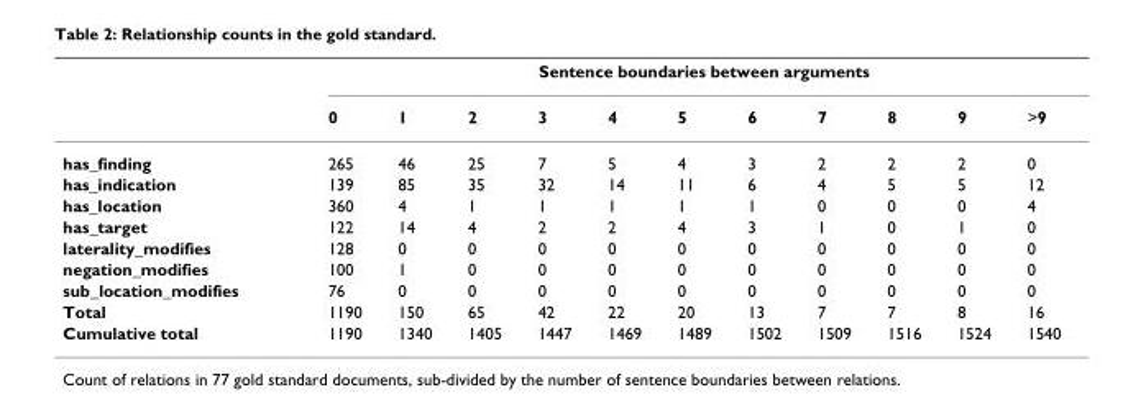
<table><thead><tr><td rowspan="2"></td><td colspan="11">Sentence boundaries between arguments</td></tr><tr><td>0</td><td>1</td><td>2</td><td>3</td><td>4</td><td>5</td><td>6</td><td>7</td><td>8</td><td>9</td><td>&gt;9</td></tr></thead><tbody><tr><td>has_finding</td><td>265</td><td>46</td><td>25</td><td>7</td><td>5</td><td>4</td><td>3</td><td>2</td><td>2</td><td>2</td><td>0</td></tr><tr><td>has_indication</td><td>139</td><td>85</td><td>35</td><td>32</td><td>14</td><td>11</td><td>6</td><td>4</td><td>5</td><td>5</td><td>12</td></tr><tr><td>has_location</td><td>360</td><td>4</td><td>1</td><td>1</td><td>1</td><td>1</td><td>1</td><td>0</td><td>0</td><td>0</td><td>4</td></tr><tr><td>has_target</td><td>122</td><td>14</td><td>4</td><td>2</td><td>2</td><td>4</td><td>3</td><td>1</td><td>0</td><td>1</td><td>0</td></tr><tr><td>laterality_modifies</td><td>128</td><td>0</td><td>0</td><td>0</td><td>0</td><td>0</td><td>0</td><td>0</td><td>0</td><td>0</td><td>0</td></tr><tr><td>negation_modifies</td><td>100</td><td>1</td><td>0</td><td>0</td><td>0</td><td>0</td><td>0</td><td>0</td><td>0</td><td>0</td><td>0</td></tr><tr><td>sub_location_modifies</td><td>76</td><td>0</td><td>0</td><td>0</td><td>0</td><td>0</td><td>0</td><td>0</td><td>0</td><td>0</td><td>0</td></tr><tr><td>Total</td><td>1190</td><td>150</td><td>65</td><td>42</td><td>22</td><td>20</td><td>13</td><td>7</td><td>7</td><td>8</td><td>16</td></tr><tr><td>Cumulative total</td><td>1190</td><td>1340</td><td>1405</td><td>1447</td><td>1469</td><td>1489</td><td>1502</td><td>1509</td><td>1516</td><td>1524</td><td>1540</td></tr></tbody></table>